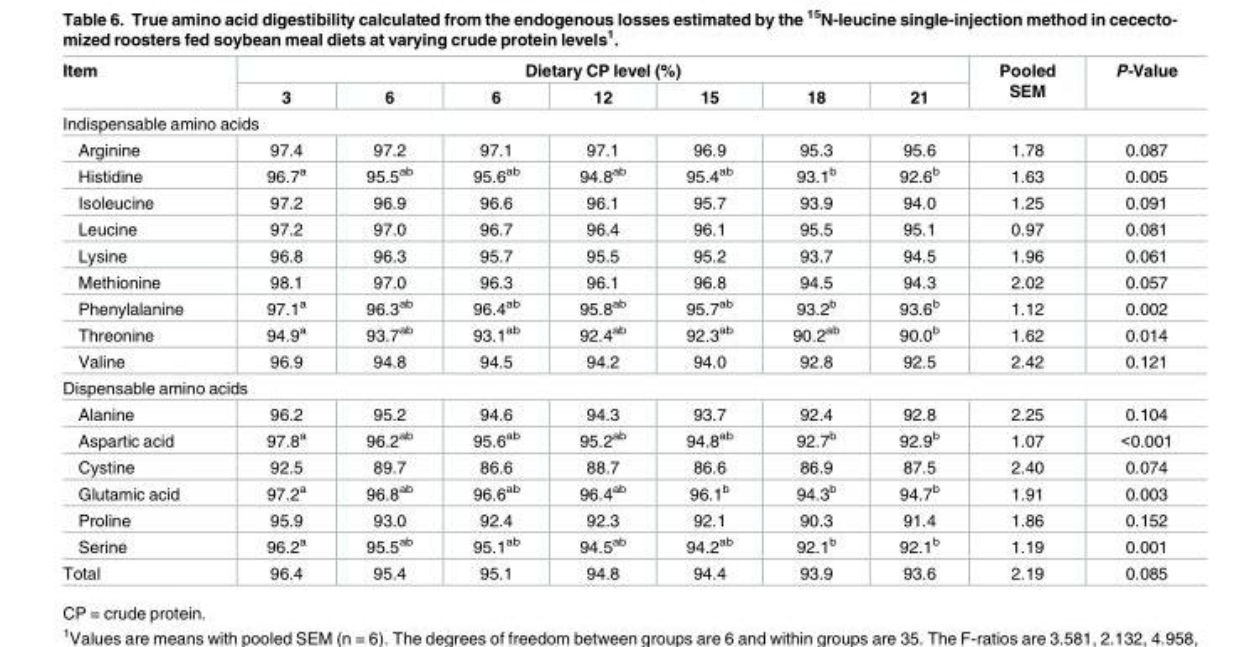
<table><thead><tr><td rowspan="2">Item</td><td colspan="7">Dietary CP level (%)</td><td rowspan="2">Pooled SEM</td><td rowspan="2">P-Value</td></tr><tr><td>3</td><td>6</td><td>6</td><td>12</td><td>15</td><td>18</td><td>21</td></tr></thead><tbody><tr><td colspan="10">Indispensable amino acids</td></tr><tr><td>Arginine</td><td>97.4</td><td>97.2</td><td>97.1</td><td>97.1</td><td>96.9</td><td>95.3</td><td>95.6</td><td>1.78</td><td>0.087</td></tr><tr><td>Histidine</td><td>96.7<sup>a</sup></td><td>95.5<sup>ab</sup></td><td>95.6<sup>ab</sup></td><td>94.8<sup>ab</sup></td><td>95.4<sup>ab</sup></td><td>93.1<sup>b</sup></td><td>92.6<sup>b</sup></td><td>1.63</td><td>0.005</td></tr><tr><td>Isoleucine</td><td>97.2</td><td>96.9</td><td>96.6</td><td>96.1</td><td>95.7</td><td>93.9</td><td>94.0</td><td>1.25</td><td>0.091</td></tr><tr><td>Leucine</td><td>97.2</td><td>97.0</td><td>96.7</td><td>96.4</td><td>96.1</td><td>95.5</td><td>95.1</td><td>0.97</td><td>0.081</td></tr><tr><td>Lysine</td><td>96.8</td><td>96.3</td><td>95.7</td><td>95.5</td><td>95.2</td><td>93.7</td><td>94.5</td><td>1.96</td><td>0.061</td></tr><tr><td>Methionine</td><td>98.1</td><td>97.0</td><td>96.3</td><td>96.1</td><td>96.8</td><td>94.5</td><td>94.3</td><td>2.02</td><td>0.057</td></tr><tr><td>Phenylalanine</td><td>97.1<sup>a</sup></td><td>96.3<sup>ab</sup></td><td>96.4<sup>ab</sup></td><td>95.8<sup>ab</sup></td><td>95.7<sup>ab</sup></td><td>93.2<sup>b</sup></td><td>93.6<sup>b</sup></td><td>1.12</td><td>0.002</td></tr><tr><td>Threonine</td><td>94.9<sup>a</sup></td><td>93.7<sup>ab</sup></td><td>93.1<sup>ab</sup></td><td>92.4<sup>ab</sup></td><td>92.3<sup>ab</sup></td><td>90.2<sup>ab</sup></td><td>90.0<sup>b</sup></td><td>1.62</td><td>0.014</td></tr><tr><td>Valine</td><td>96.9</td><td>94.8</td><td>94.5</td><td>94.2</td><td>94.0</td><td>92.8</td><td>92.5</td><td>2.42</td><td>0.121</td></tr><tr><td colspan="10">Dispensable amino acids</td></tr><tr><td>Alanine</td><td>96.2</td><td>95.2</td><td>94.6</td><td>94.3</td><td>93.7</td><td>92.4</td><td>92.8</td><td>2.25</td><td>0.104</td></tr><tr><td>Aspartic acid</td><td>97.8<sup>a</sup></td><td>96.2<sup>ab</sup></td><td>95.6<sup>ab</sup></td><td>95.2<sup>ab</sup></td><td>94.8<sup>ab</sup></td><td>92.7<sup>b</sup></td><td>92.9<sup>b</sup></td><td>1.07</td><td>&lt;0.001</td></tr><tr><td>Cystine</td><td>92.5</td><td>89.7</td><td>86.6</td><td>88.7</td><td>86.6</td><td>86.9</td><td>87.5</td><td>2.40</td><td>0.074</td></tr><tr><td>Glutamic acid</td><td>97.2<sup>a</sup></td><td>96.8<sup>ab</sup></td><td>96.6<sup>ab</sup></td><td>96.4<sup>ab</sup></td><td>96.1<sup>b</sup></td><td>94.3<sup>b</sup></td><td>94.7<sup>b</sup></td><td>1.91</td><td>0.003</td></tr><tr><td>Proline</td><td>95.9</td><td>93.0</td><td>92.4</td><td>92.3</td><td>92.1</td><td>90.3</td><td>91.4</td><td>1.86</td><td>0.152</td></tr><tr><td>Serine</td><td>96.2<sup>a</sup></td><td>95.5<sup>ab</sup></td><td>95.1<sup>ab</sup></td><td>94.5<sup>ab</sup></td><td>94.2<sup>ab</sup></td><td>92.1<sup>b</sup></td><td>92.1<sup>b</sup></td><td>1.19</td><td>0.001</td></tr><tr><td>Total</td><td>96.4</td><td>95.4</td><td>95.1</td><td>94.8</td><td>94.4</td><td>93.9</td><td>93.6</td><td>2.19</td><td>0.085</td></tr></tbody></table>